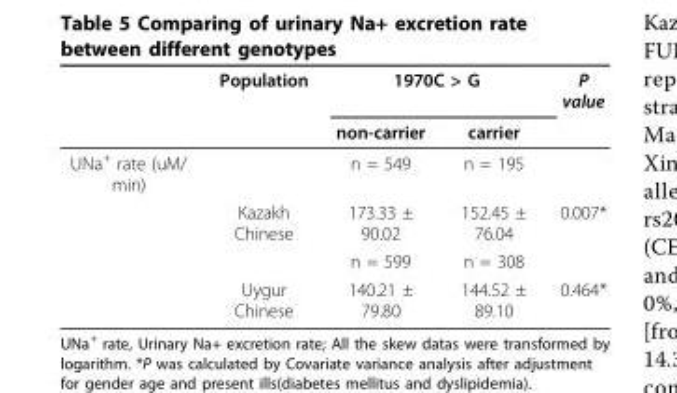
<table><thead><tr><td rowspan="2"></td><td rowspan="2">Population</td><td colspan="2">1970C &gt; G</td><td rowspan="2">P value</td></tr><tr><td>non-carrier</td><td>carrier</td></tr></thead><tbody><tr><td rowspan="4">UNa<sup>+</sup> rate (uM/ min)</td><td></td><td>n = 549</td><td>n = 195</td><td></td></tr><tr><td>Kazakh Chinese</td><td>173.33 ± 90.02</td><td>152.45 ± 76.04</td><td>0.007*</td></tr><tr><td></td><td>n = 599</td><td>n = 308</td><td></td></tr><tr><td>Uygur Chinese</td><td>140.21 ± 79.80</td><td>144.52 ± 89.10</td><td>0.464*</td></tr></tbody></table>